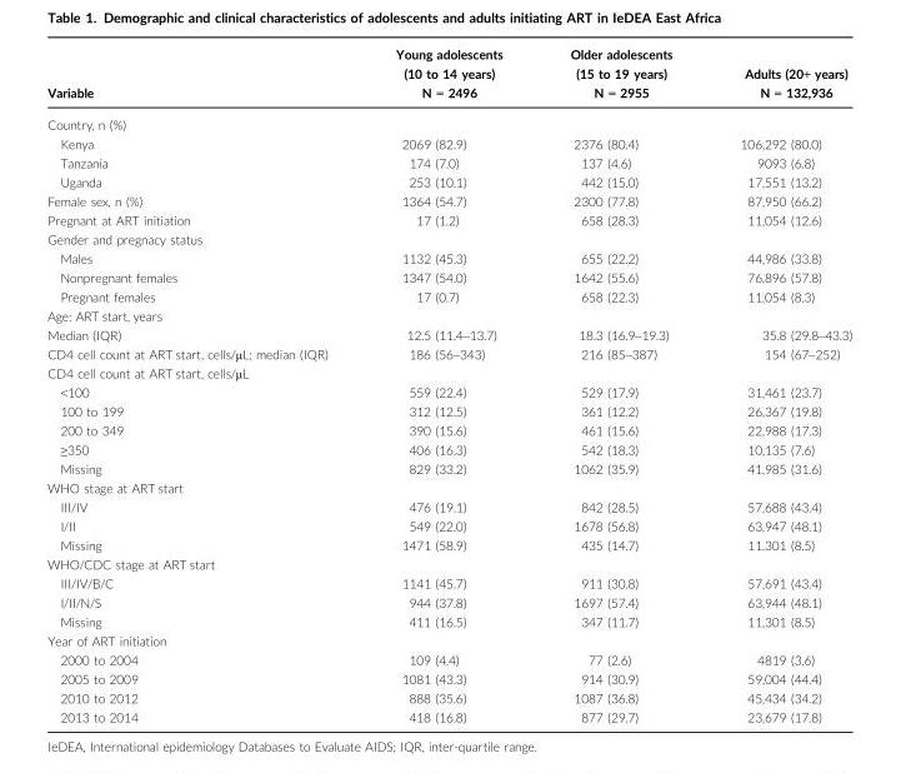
<table><thead><tr><td>Variable</td><td>Young adolescents (10 to 14 years) N = 2496</td><td>Older adolescents (15 to 19 years) N = 2955</td><td>Adults (20+ years) N = 132,936</td></tr></thead><tbody><tr><td colspan="4">Country, n (%)</td></tr><tr><td>Kenya</td><td>2069 (82.9)</td><td>2376 (80.4)</td><td>106,292 (80.0)</td></tr><tr><td>Tanzania</td><td>174 (7.0)</td><td>137 (4.6)</td><td>9093 (6.8)</td></tr><tr><td>Uganda</td><td>253 (10.1)</td><td>442 (15.0)</td><td>17,551 (13.2)</td></tr><tr><td>Female sex, n (%)</td><td>1364 (54.7)</td><td>2300 (77.8)</td><td>87,950 (66.2)</td></tr><tr><td>Pregnant at ART initiation</td><td>17 (1.2)</td><td>658 (28.3)</td><td>11,054 (12.6)</td></tr><tr><td colspan="4">Gender and pregnacy status</td></tr><tr><td>Males</td><td>1132 (45.3)</td><td>655 (22.2)</td><td>44,986 (33.8)</td></tr><tr><td>Nonpregnant females</td><td>1347 (54.0)</td><td>1642 (55.6)</td><td>76,896 (57.8)</td></tr><tr><td>Pregnant females</td><td>17 (0.7)</td><td>658 (22.3)</td><td>11,054 (8.3)</td></tr><tr><td colspan="4">Age: ART start, years</td></tr><tr><td>Median (IQR)</td><td>12.5 (11.4–13.7)</td><td>18.3 (16.9–19.3)</td><td>35.8 (29.8–43.3)</td></tr><tr><td>CD4 cell count at ART start, cells/μL; median (IQR)</td><td>186 (56–343)</td><td>216 (85–387)</td><td>154 (67–252)</td></tr><tr><td colspan="4">CD4 cell count at ART start, cells/μL</td></tr><tr><td>&lt;100</td><td>559 (22.4)</td><td>529 (17.9)</td><td>31,461 (23.7)</td></tr><tr><td>100 to 199</td><td>312 (12.5)</td><td>361 (12.2)</td><td>26,367 (19.8)</td></tr><tr><td>200 to 349</td><td>390 (15.6)</td><td>461 (15.6)</td><td>22,988 (17.3)</td></tr><tr><td>≥350</td><td>406 (16.3)</td><td>542 (18.3)</td><td>10,135 (7.6)</td></tr><tr><td>Missing</td><td>829 (33.2)</td><td>1062 (35.9)</td><td>41,985 (31.6)</td></tr><tr><td colspan="4">WHO stage at ART start</td></tr><tr><td>III/IV</td><td>476 (19.1)</td><td>842 (28.5)</td><td>57,688 (43.4)</td></tr><tr><td>I/II</td><td>549 (22.0)</td><td>1678 (56.8)</td><td>63,947 (48.1)</td></tr><tr><td>Missing</td><td>1471 (58.9)</td><td>435 (14.7)</td><td>11,301 (8.5)</td></tr><tr><td colspan="4">WHO/CDC stage at ART start</td></tr><tr><td>III/IV/B/C</td><td>1141 (45.7)</td><td>911 (30.8)</td><td>57,691 (43.4)</td></tr><tr><td>I/II/N/S</td><td>944 (37.8)</td><td>1697 (57.4)</td><td>63,944 (48.1)</td></tr><tr><td>Missing</td><td>411 (16.5)</td><td>347 (11.7)</td><td>11,301 (8.5)</td></tr><tr><td colspan="4">Year of ART initiation</td></tr><tr><td>2000 to 2004</td><td>109 (4.4)</td><td>77 (2.6)</td><td>4819 (3.6)</td></tr><tr><td>2005 to 2009</td><td>1081 (43.3)</td><td>914 (30.9)</td><td>59,004 (44.4)</td></tr><tr><td>2010 to 2012</td><td>888 (35.6)</td><td>1087 (36.8)</td><td>45,434 (34.2)</td></tr><tr><td>2013 to 2014</td><td>418 (16.8)</td><td>877 (29.7)</td><td>23,679 (17.8)</td></tr></tbody></table>